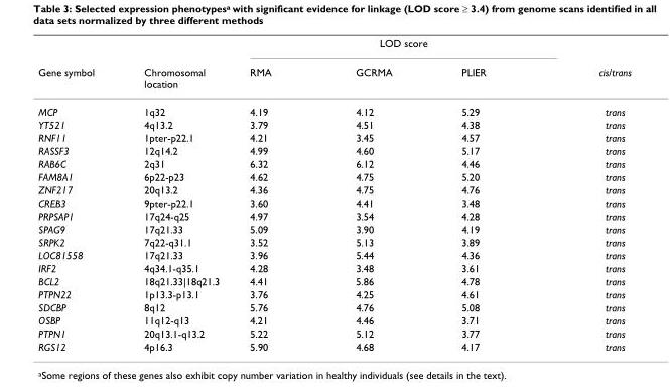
<table><thead><tr><td rowspan="2">Gene symbol</td><td rowspan="2">Chromosomal location</td><td colspan="3">LOD score</td><td rowspan="2">cis/trans</td></tr><tr><td>RMA</td><td>GCRMA</td><td>PLIER</td></tr></thead><tbody><tr><td>MCP</td><td>1q32</td><td>4.19</td><td>4.12</td><td>5.29</td><td>trans</td></tr><tr><td>YT521</td><td>4q13.2</td><td>3.79</td><td>4.51</td><td>4.38</td><td>trans</td></tr><tr><td>RNF11</td><td>1pter-p22.1</td><td>4.21</td><td>3.45</td><td>4.57</td><td>trans</td></tr><tr><td>RASSF3</td><td>12q14.2</td><td>4.99</td><td>4.60</td><td>5.17</td><td>trans</td></tr><tr><td>RAB6C</td><td>2q31</td><td>6.32</td><td>6.12</td><td>4.46</td><td>trans</td></tr><tr><td>FAM8A1</td><td>6p22-p23</td><td>4.62</td><td>4.75</td><td>5.20</td><td>trans</td></tr><tr><td>ZNF217</td><td>20q13.2</td><td>4.36</td><td>4.75</td><td>4.76</td><td>trans</td></tr><tr><td>CREB3</td><td>9pter-p22.1</td><td>3.60</td><td>4.41</td><td>3.48</td><td>trans</td></tr><tr><td>PRPSAP1</td><td>17q24-q25</td><td>4.97</td><td>3.54</td><td>4.28</td><td>trans</td></tr><tr><td>SPAG9</td><td>17q21.33</td><td>5.09</td><td>3.90</td><td>4.19</td><td>trans</td></tr><tr><td>SRPK2</td><td>7q22-q31.1</td><td>3.52</td><td>5.13</td><td>3.89</td><td>trans</td></tr><tr><td>LOC81558</td><td>17q21.33</td><td>3.96</td><td>5.44</td><td>4.36</td><td>trans</td></tr><tr><td>IRF2</td><td>4q34.1-q35.1</td><td>4.28</td><td>3.48</td><td>3.61</td><td>trans</td></tr><tr><td>BCL2</td><td>18q21.33|18q21.3</td><td>4.41</td><td>5.86</td><td>4.78</td><td>trans</td></tr><tr><td>PTPN22</td><td>1p13.3-p13.1</td><td>3.76</td><td>4.25</td><td>4.61</td><td>trans</td></tr><tr><td>SDCBP</td><td>8q12</td><td>5.76</td><td>4.76</td><td>5.08</td><td>trans</td></tr><tr><td>OSBP</td><td>11q12-q13</td><td>4.21</td><td>4.46</td><td>3.71</td><td>trans</td></tr><tr><td>PTPN1</td><td>20q13.1-q13.2</td><td>5.22</td><td>5.12</td><td>3.77</td><td>trans</td></tr><tr><td>RGS12</td><td>4p16.3</td><td>5.90</td><td>4.68</td><td>4.17</td><td>trans</td></tr></tbody></table>